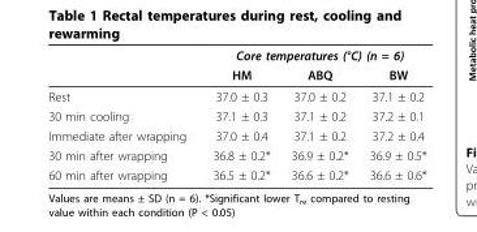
<table><thead><tr><td rowspan="2"></td><td colspan="3">Core temperatures (°C) (n = 6)</td></tr><tr><td>HM</td><td>ABQ</td><td>BW</td></tr></thead><tbody><tr><td>Rest</td><td>37.0 ± 0.3</td><td>37.0 ± 0.2</td><td>37.1 ± 0.2</td></tr><tr><td>30 min cooling</td><td>37.1 ± 0.3</td><td>37.1 ± 0.2</td><td>37.2 ± 0.1</td></tr><tr><td>Immediate after wrapping</td><td>37.0 ± 0.4</td><td>37.1 ± 0.2</td><td>37.2 ± 0.4</td></tr><tr><td>30 min after wrapping</td><td>36.8 ± 0.2*</td><td>36.9 ± 0.2*</td><td>36.9 ± 0.5*</td></tr><tr><td>60 min after wrapping</td><td>36.5 ± 0.2*</td><td>36.6 ± 0.2*</td><td>36.6 ± 0.6*</td></tr></tbody></table>